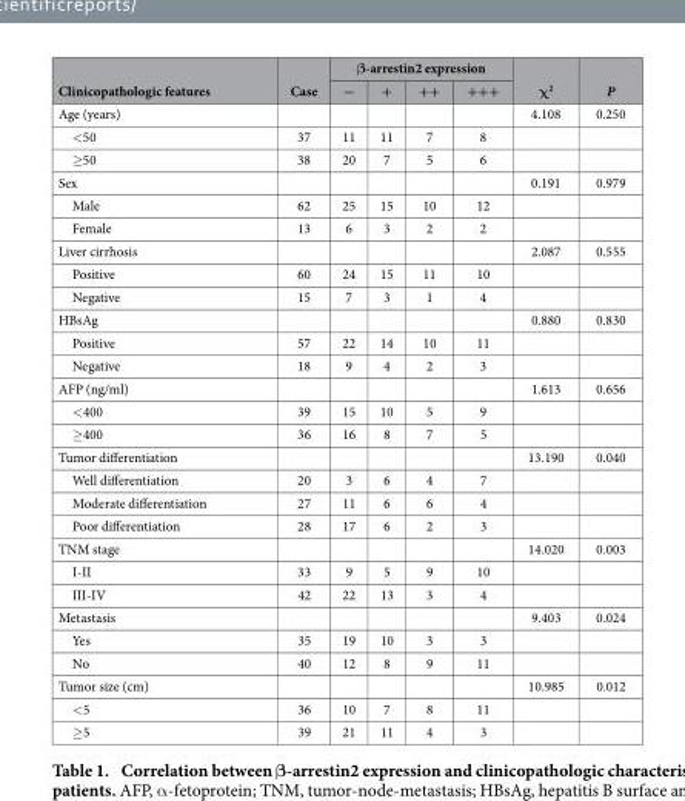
<table><thead><tr><td rowspan="2">Clinicopathologic features</td><td rowspan="2">Case</td><td colspan="4">β-arrestin2 expression</td><td rowspan="2">χ<sup>2</sup></td><td rowspan="2">P</td></tr><tr><td>−</td><td>+</td><td>++</td><td>+++</td></tr></thead><tbody><tr><td>Age (years)</td><td></td><td></td><td></td><td></td><td></td><td>4.108</td><td>0.250</td></tr><tr><td>&lt; 50</td><td>37</td><td>11</td><td>11</td><td>7</td><td>8</td><td></td><td></td></tr><tr><td>≥ 50</td><td>38</td><td>20</td><td>7</td><td>5</td><td>6</td><td></td><td></td></tr><tr><td>Sex</td><td></td><td></td><td></td><td></td><td></td><td>0.191</td><td>0.979</td></tr><tr><td>Male</td><td>62</td><td>25</td><td>15</td><td>10</td><td>12</td><td></td><td></td></tr><tr><td>Female</td><td>13</td><td>6</td><td>3</td><td>2</td><td>2</td><td></td><td></td></tr><tr><td>Liver cirrhosis</td><td></td><td></td><td></td><td></td><td></td><td>2.087</td><td>0.555</td></tr><tr><td>Positive</td><td>60</td><td>24</td><td>15</td><td>11</td><td>10</td><td></td><td></td></tr><tr><td>Negative</td><td>15</td><td>7</td><td>3</td><td>1</td><td>4</td><td></td><td></td></tr><tr><td>HBsAg</td><td></td><td></td><td></td><td></td><td></td><td>0.880</td><td>0.830</td></tr><tr><td>Positive</td><td>57</td><td>22</td><td>14</td><td>10</td><td>11</td><td></td><td></td></tr><tr><td>Negative</td><td>18</td><td>9</td><td>4</td><td>2</td><td>3</td><td></td><td></td></tr><tr><td>AFP (ng/ml)</td><td></td><td></td><td></td><td></td><td></td><td>1.613</td><td>0.656</td></tr><tr><td>&lt; 400</td><td>39</td><td>15</td><td>10</td><td>5</td><td>9</td><td></td><td></td></tr><tr><td>≥ 400</td><td>36</td><td>16</td><td>8</td><td>7</td><td>5</td><td></td><td></td></tr><tr><td>Tumor differentiation</td><td></td><td></td><td></td><td></td><td></td><td>13.190</td><td>0.040</td></tr><tr><td>Well differentiation</td><td>20</td><td>3</td><td>6</td><td>4</td><td>7</td><td></td><td></td></tr><tr><td>Moderate differentiation</td><td>27</td><td>11</td><td>6</td><td>6</td><td>4</td><td></td><td></td></tr><tr><td>Poor differentiation</td><td>28</td><td>17</td><td>6</td><td>2</td><td>3</td><td></td><td></td></tr><tr><td>TNM stage</td><td></td><td></td><td></td><td></td><td></td><td>14.020</td><td>0.003</td></tr><tr><td>I-II</td><td>33</td><td>9</td><td>5</td><td>9</td><td>10</td><td></td><td></td></tr><tr><td>III-IV</td><td>42</td><td>22</td><td>13</td><td>3</td><td>4</td><td></td><td></td></tr><tr><td>Metastasis</td><td></td><td></td><td></td><td></td><td></td><td>9.403</td><td>0.024</td></tr><tr><td>Yes</td><td>35</td><td>19</td><td>10</td><td>3</td><td>3</td><td></td><td></td></tr><tr><td>No</td><td>40</td><td>12</td><td>8</td><td>9</td><td>11</td><td></td><td></td></tr><tr><td>Tumor size (cm)</td><td></td><td></td><td></td><td></td><td></td><td>10.985</td><td>0.012</td></tr><tr><td>&lt; 5</td><td>36</td><td>10</td><td>7</td><td>8</td><td>11</td><td></td><td></td></tr><tr><td>≥ 5</td><td>39</td><td>21</td><td>11</td><td>4</td><td>3</td><td></td><td></td></tr></tbody></table>